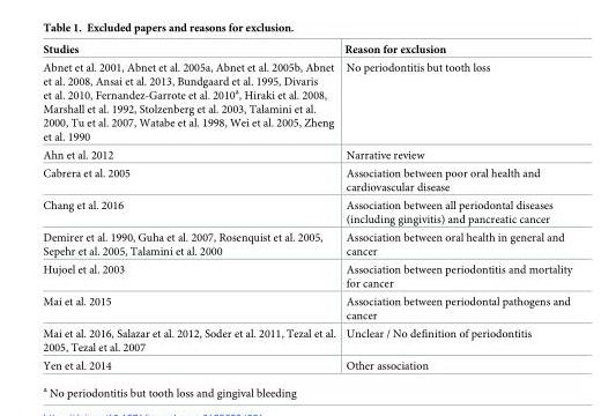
<table><thead><tr><td>Studies</td><td>Reason for exclusion</td></tr></thead><tbody><tr><td>Abnet et al. 2001, Abnet et al. 2005a, Abnet et al. 2005b, Abnet et al. 2008, Ansai et al. 2013, Bundgaard et al. 1995, Divaris et al. 2010, Fernandez-Garrote et al. 2010<sup>a</sup>, Hiraki et al. 2008, Marshall et al. 1992, Stolzenberg et al. 2003, Talamini et al. 2000, Tu et al. 2007, Watabe et al. 1998, Wei et al. 2005, Zheng et al. 1990</td><td>No periodontitis but tooth loss</td></tr><tr><td>Ahn et al. 2012</td><td>Narrative review</td></tr><tr><td>Cabrera et al. 2005</td><td>Association between poor oral health and cardiovascular disease</td></tr><tr><td>Chang et al. 2016</td><td>Association between all periodontal diseases (including gingivitis) and pancreatic cancer</td></tr><tr><td>Demirer et al. 1990, Guha et al. 2007, Rosenquist et al. 2005, Sepehr et al. 2005, Talamini et al. 2000</td><td>Association between oral health in general and cancer</td></tr><tr><td>Hujoel et al. 2003</td><td>Association between periodontitis and mortality for cancer</td></tr><tr><td>Mai et al. 2015</td><td>Association between periodontal pathogens and cancer</td></tr><tr><td>Mai et al. 2016, Salazar et al. 2012, Soder et al. 2011, Tezal et al. 2005, Tezal et al. 2007</td><td>Unclear / No definition of periodontitis</td></tr><tr><td>Yen et al. 2014</td><td>Other association</td></tr></tbody></table>